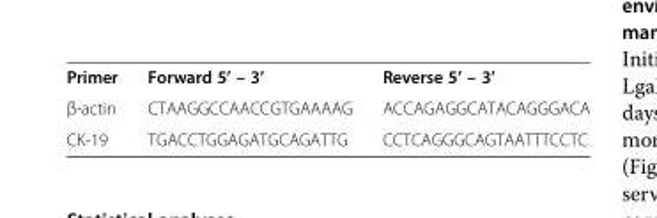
<table><tbody><tr><td>Primer</td><td>Forward 5’ – 3’</td><td>Reverse 5’ – 3’</td></tr><tr><td>β-actin</td><td>CTAAGGCCAACCGTGAAAAG</td><td>ACCAGAGGCATACAGGGACA</td></tr><tr><td>CK-19</td><td>TGACCTGGAGATGCAGATTG</td><td>CCTCAGGGCAGTAATTTCCTC</td></tr></tbody></table>